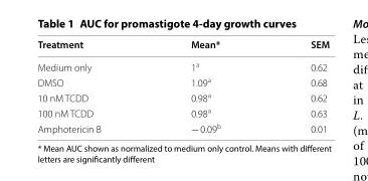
<table><thead><tr><td>Treatment</td><td>Mean*</td><td>SEM</td></tr></thead><tbody><tr><td>Medium only</td><td>1<sup>a</sup></td><td>0.62</td></tr><tr><td>DMSO</td><td>1.09<sup>a</sup></td><td>0.68</td></tr><tr><td>10 nM TCDD</td><td>0.98<sup>a</sup></td><td>0.62</td></tr><tr><td>100 nM TCDD</td><td>0.98<sup>a</sup></td><td>0.63</td></tr><tr><td>Amphotericin B</td><td>− 0.09<sup>b</sup></td><td>0.01</td></tr></tbody></table>